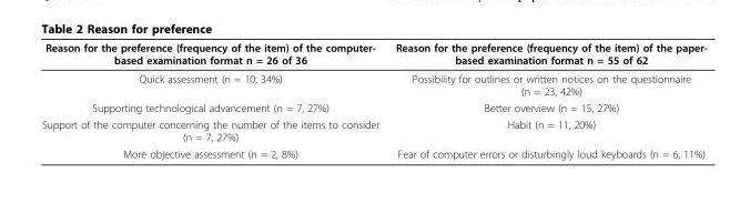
<table><thead><tr><td>Reason for the preference (frequency of the item) of the computer- based examination format n = 26 of 36</td><td>Reason for the preference (frequency of the item) of the paper- based examination format n = 55 of 62</td></tr></thead><tbody><tr><td>Quick assessment (n = 10, 34%)</td><td>Possibility for outlines or written notices on the questionnaire (n = 23, 42%)</td></tr><tr><td>Supporting technological advancement (n = 7, 27%)</td><td>Better overview (n = 15, 27%)</td></tr><tr><td>Support of the computer concerning the number of the items to consider (n = 7, 27%)</td><td>Habit (n = 11, 20%)</td></tr><tr><td>More objective assessment (n = 2, 8%)</td><td>Fear of computer errors or disturbingly loud keyboards (n = 6, 11%)</td></tr></tbody></table>